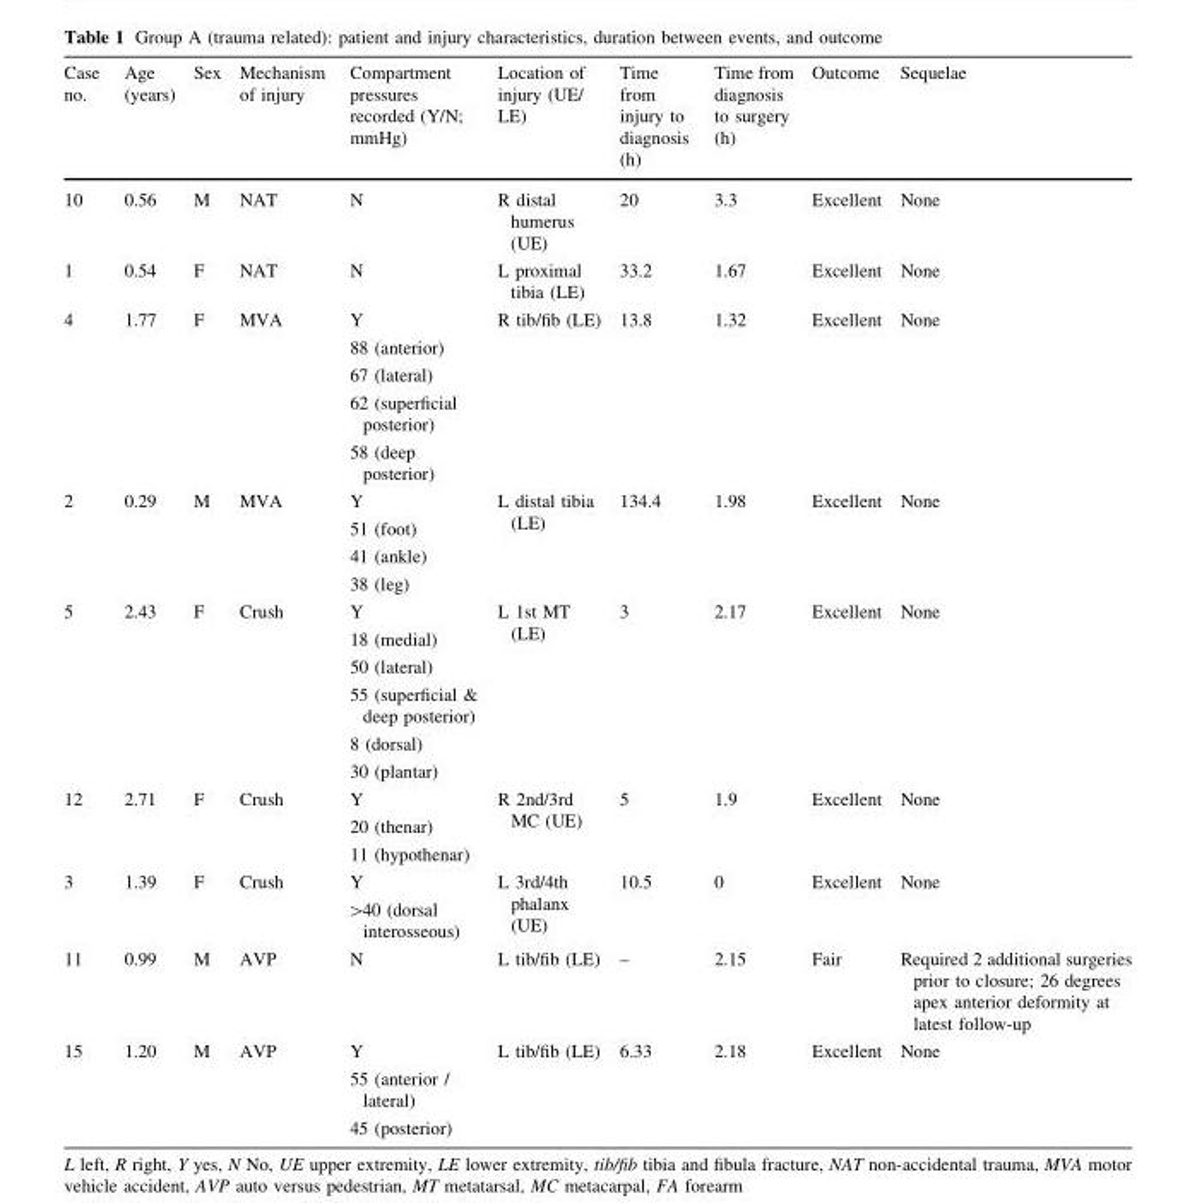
<table><thead><tr><td>Case no.</td><td>Age (years)</td><td>Sex</td><td>Mechanism of injury</td><td>Compartment pressures recorded (Y/N; mmHg)</td><td>Location of injury (UE/ LE)</td><td>Time from injury to diagnosis (h)</td><td>Time from diagnosis to surgery (h)</td><td>Outcome</td><td>Sequelae</td></tr></thead><tbody><tr><td>10</td><td>0.56</td><td>M</td><td>NAT</td><td>N</td><td>R distal humerus (UE)</td><td>20</td><td>3.3</td><td>Excellent</td><td>None</td></tr><tr><td>1</td><td>0.54</td><td>F</td><td>NAT</td><td>N</td><td>L proximal tibia (LE)</td><td>33.2</td><td>1.67</td><td>Excellent</td><td>None</td></tr><tr><td>4</td><td>1.77</td><td>F</td><td>MVA</td><td>Y 88 (anterior) 67 (lateral) 62 (superficial posterior) 58 (deep posterior)</td><td>R tib/fib (LE)</td><td>13.8</td><td>1.32</td><td>Excellent</td><td>None</td></tr><tr><td>2</td><td>0.29</td><td>M</td><td>MVA</td><td>Y 51 (foot) 41 (ankle) 38 (leg)</td><td>L distal tibia (LE)</td><td>134.4</td><td>1.98</td><td>Excellent</td><td>None</td></tr><tr><td>5</td><td>2.43</td><td>F</td><td>Crush</td><td>Y 18 (medial) 50 (lateral) 55 (superficial &amp; deep posterior) 8 (dorsal) 30 (plantar)</td><td>L 1st MT (LE)</td><td>3</td><td>2.17</td><td>Excellent</td><td>None</td></tr><tr><td>12</td><td>2.71</td><td>F</td><td>Crush</td><td>Y 20 (thenar) 11 (hypothenar)</td><td>R 2nd/3rd MC (UE)</td><td>5</td><td>1.9</td><td>Excellent</td><td>None</td></tr><tr><td>3</td><td>1.39</td><td>F</td><td>Crush</td><td>Y &gt;40 (dorsal interosseous)</td><td>L 3rd/4th phalanx (UE)</td><td>10.5</td><td>0</td><td>Excellent</td><td>None</td></tr><tr><td>11</td><td>0.99</td><td>M</td><td>AVP</td><td>N</td><td>L tib/fib (LE)</td><td>–</td><td>2.15</td><td>Fair</td><td>Required 2 additional surgeries prior to closure; 26 degrees apex anterior deformity at latest follow-up</td></tr><tr><td>15</td><td>1.20</td><td>M</td><td>AVP</td><td>Y 55 (anterior / lateral) 45 (posterior)</td><td>L tib/fib (LE)</td><td>6.33</td><td>2.18</td><td>Excellent</td><td>None</td></tr></tbody></table>